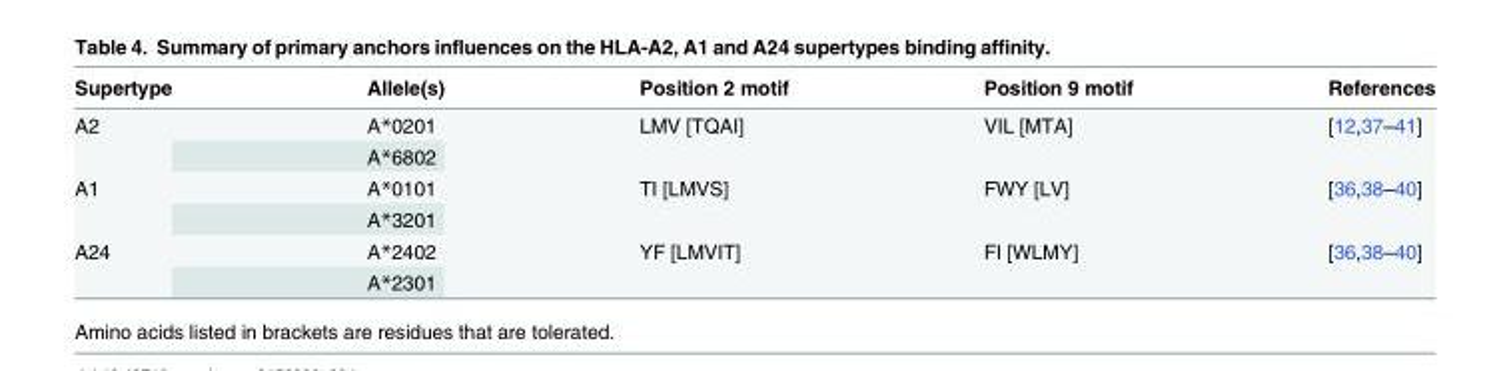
<table><thead><tr><td>Supertype</td><td>Allele(s)</td><td>Position 2 motif</td><td>Position 9 motif</td><td>References</td></tr></thead><tbody><tr><td rowspan="2">A2</td><td>A*0201</td><td rowspan="2">LMV [TQAI]</td><td rowspan="2">VIL [MTA]</td><td rowspan="2">[12,37–41]</td></tr><tr><td>A*6802</td></tr><tr><td rowspan="2">A1</td><td>A*0101</td><td rowspan="2">TI [LMVS]</td><td rowspan="2">FWY [LV]</td><td rowspan="2">[36,38–40]</td></tr><tr><td>A*3201</td></tr><tr><td rowspan="2">A24</td><td>A*2402</td><td rowspan="2">YF [LMVIT]</td><td rowspan="2">FI [WLMY]</td><td rowspan="2">[36,38–40]</td></tr><tr><td>A*2301</td></tr></tbody></table>